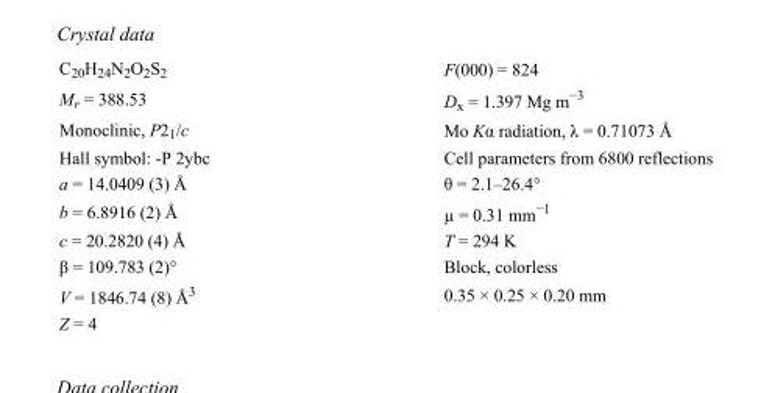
<table><tbody><tr><td>C<sub>20</sub>H<sub>24</sub>N<sub>2</sub>O<sub>2</sub>S<sub>2</sub></td><td>F(000) = 824</td></tr><tr><td>M<sub>r</sub> = 388.53</td><td>D<sub>x</sub> = 1.397 Mg m<sup>−3</sup></td></tr><tr><td>Monoclinic, P2<sub>1</sub>/c</td><td>Mo Kα radiation, λ = 0.71073 Å</td></tr><tr><td>Hall symbol: -P 2ybc</td><td>Cell parameters from 6800 reflections</td></tr><tr><td>a = 14.0409 (3) Å</td><td>θ = 2.1–26.4°</td></tr><tr><td>b = 6.8916 (2) Å</td><td>µ = 0.31 mm<sup>−1</sup></td></tr><tr><td>c = 20.2820 (4) Å</td><td>T = 294 K</td></tr><tr><td>β = 109.783 (2)°</td><td>Block, colorless</td></tr><tr><td>V = 1846.74 (8) Å<sup>3</sup></td><td>0.35 × 0.25 × 0.20 mm</td></tr><tr><td>Z = 4</td><td></td></tr></tbody></table>